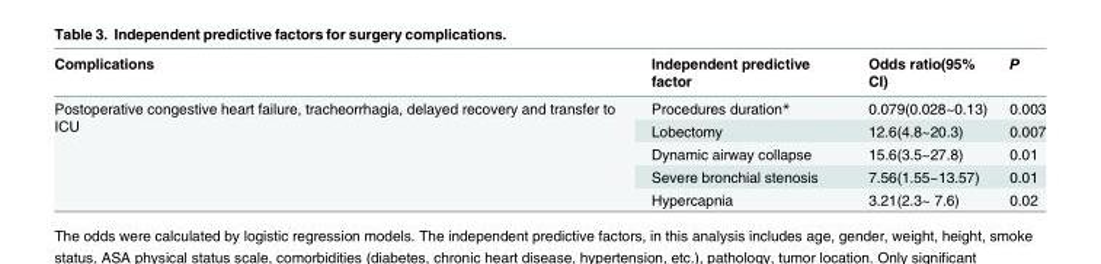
<table><thead><tr><td>Complications</td><td>Independent predictive factor</td><td>Odds ratio(95% CI)</td><td>P</td></tr></thead><tbody><tr><td rowspan="5">Postoperative congestive heart failure, tracheorrhagia, delayed recovery and transfer to ICU</td><td>Procedures duration*</td><td>0.079(0.028~0.13)</td><td>0.003</td></tr><tr><td>Lobectomy</td><td>12.6(4.8~20.3)</td><td>0.007</td></tr><tr><td>Dynamic airway collapse</td><td>15.6(3.5~27.8)</td><td>0.01</td></tr><tr><td>Severe bronchial stenosis</td><td>7.56(1.55~13.57)</td><td>0.01</td></tr><tr><td>Hypercapnia</td><td>3.21(2.3~ 7.6)</td><td>0.02</td></tr></tbody></table>